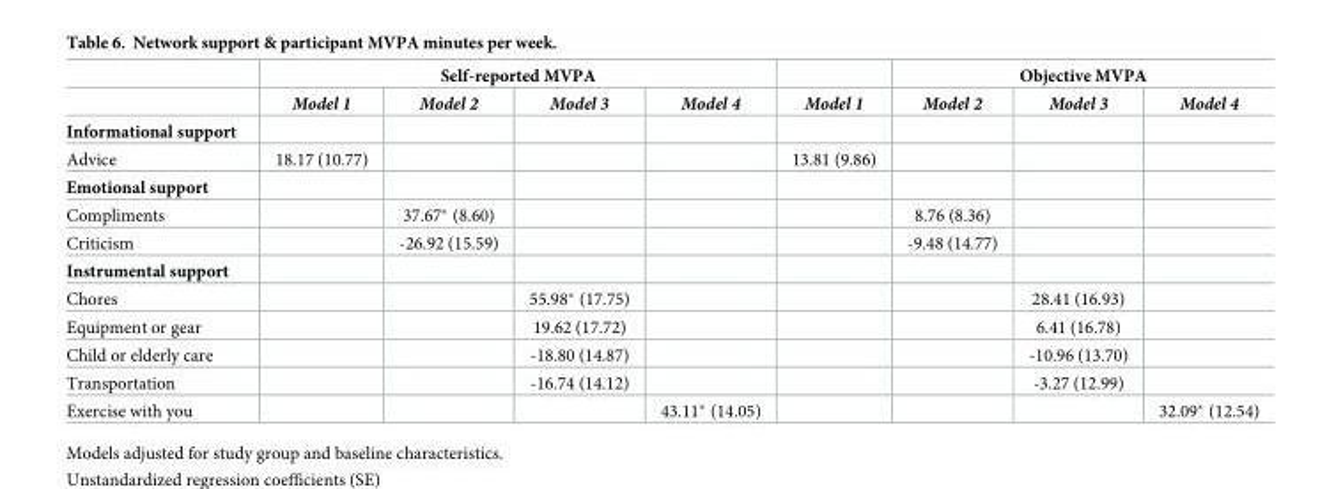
<table><thead><tr><td rowspan="2"></td><td colspan="4">Self-reported MVPA</td><td rowspan="2">Model 1</td><td colspan="3">Objective MVPA</td></tr><tr><td>Model 1</td><td>Model 2</td><td>Model 3</td><td>Model 4</td><td>Model 2</td><td>Model 3</td><td>Model 4</td></tr></thead><tbody><tr><td colspan="9">Informational support</td></tr><tr><td>Advice</td><td>18.17 (10.77)</td><td></td><td></td><td></td><td>13.81 (9.86)</td><td></td><td></td><td></td></tr><tr><td colspan="9">Emotional support</td></tr><tr><td>Compliments</td><td></td><td>37.67* (8.60)</td><td></td><td></td><td></td><td>8.76 (8.36)</td><td></td><td></td></tr><tr><td>Criticism</td><td></td><td>-26.92 (15.59)</td><td></td><td></td><td></td><td>-9.48 (14.77)</td><td></td><td></td></tr><tr><td colspan="9">Instrumental support</td></tr><tr><td>Chores</td><td></td><td></td><td>55.98* (17.75)</td><td></td><td></td><td></td><td>28.41 (16.93)</td><td></td></tr><tr><td>Equipment or gear</td><td></td><td></td><td>19.62 (17.72)</td><td></td><td></td><td></td><td>6.41 (16.78)</td><td></td></tr><tr><td>Child or elderly care</td><td></td><td></td><td>-18.80 (14.87)</td><td></td><td></td><td></td><td>-10.96 (13.70)</td><td></td></tr><tr><td>Transportation</td><td></td><td></td><td>-16.74 (14.12)</td><td></td><td></td><td></td><td>-3.27 (12.99)</td><td></td></tr><tr><td>Exercise with you</td><td></td><td></td><td></td><td>43.11* (14.05)</td><td></td><td></td><td></td><td>32.09* (12.54)</td></tr></tbody></table>